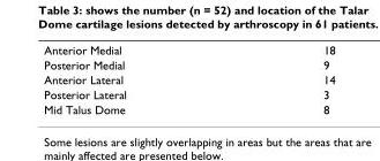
<table><tbody><tr><td>Anterior Medial</td><td>18</td></tr><tr><td>Posterior Medial</td><td>9</td></tr><tr><td>Anterior Lateral</td><td>14</td></tr><tr><td>Posterior Lateral</td><td>3</td></tr><tr><td>Mid Talus Dome</td><td>8</td></tr></tbody></table>